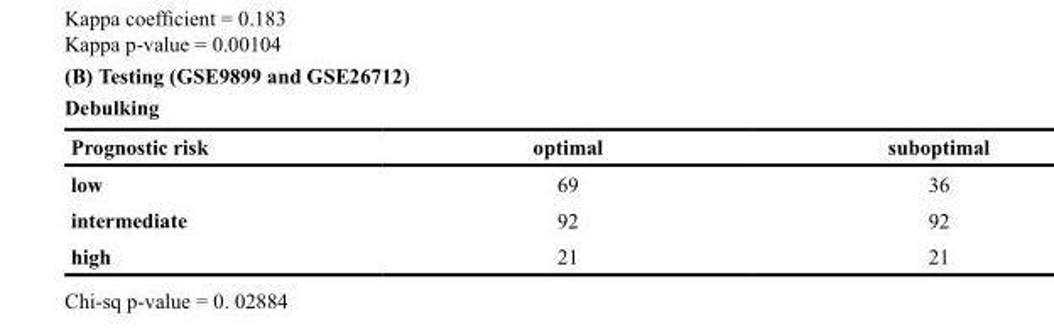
<table><thead><tr><td rowspan="2" colspan="3">(B) Testing (GSE9899 and GSE26712) Debulking</td></tr><tr></tr><tr><td>Prognostic risk</td><td>optimal</td><td>suboptimal</td></tr></thead><tbody><tr><td>low</td><td>69</td><td>36</td></tr><tr><td>intermediate</td><td>92</td><td>92</td></tr><tr><td>high</td><td>21</td><td>21</td></tr></tbody></table>